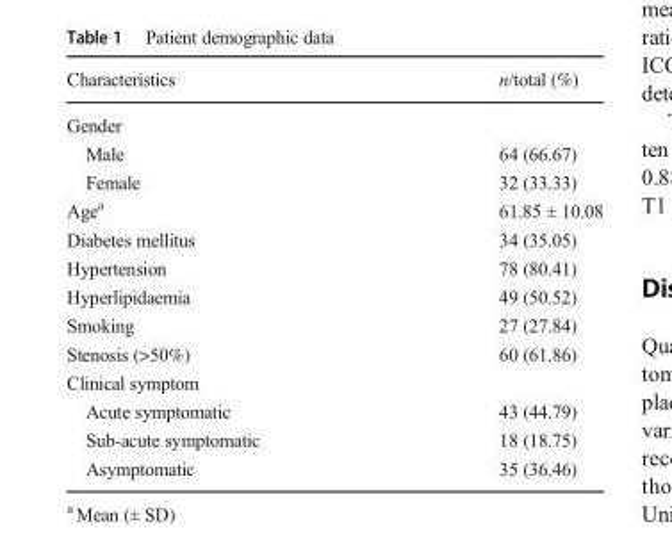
<table><thead><tr><td>Characteristics</td><td>n/total (%)</td></tr></thead><tbody><tr><td colspan="2">Gender</td></tr><tr><td>Male</td><td>64 (66.67)</td></tr><tr><td>Female</td><td>32 (33.33)</td></tr><tr><td>Age<sup>a</sup></td><td>61.85 ± 10.08</td></tr><tr><td>Diabetes mellitus</td><td>34 (35.05)</td></tr><tr><td>Hypertension</td><td>78 (80.41)</td></tr><tr><td>Hyperlipidaemia</td><td>49 (50.52)</td></tr><tr><td>Smoking</td><td>27 (27.84)</td></tr><tr><td>Stenosis (&gt;50%)</td><td>60 (61.86)</td></tr><tr><td colspan="2">Clinical symptom</td></tr><tr><td>Acute symptomatic</td><td>43 (44.79)</td></tr><tr><td>Sub-acute symptomatic</td><td>18 (18.75)</td></tr><tr><td>Asymptomatic</td><td>35 (36.46)</td></tr></tbody></table>